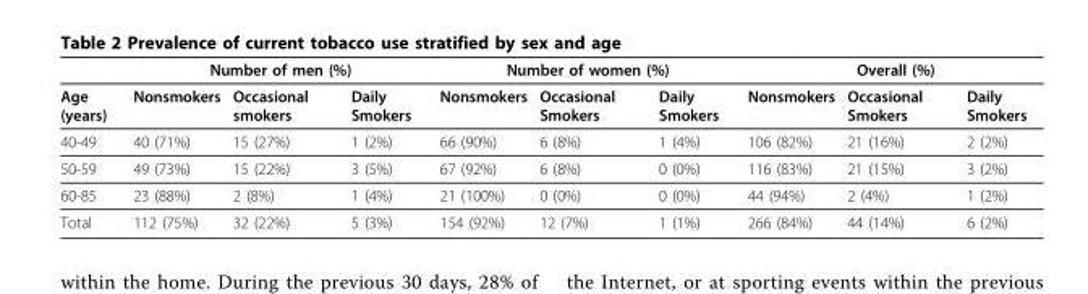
<table><thead><tr><td rowspan="2">Age (years)</td><td colspan="3">Number of men (%)</td><td colspan="3">Number of women (%)</td><td colspan="3">Overall (%)</td></tr><tr><td>Nonsmokers</td><td>Occasional smokers</td><td>Daily Smokers</td><td>Nonsmokers</td><td>Occasional Smokers</td><td>Daily Smokers</td><td>Nonsmokers</td><td>Occasional Smokers</td><td>Daily Smokers</td></tr></thead><tbody><tr><td>40-49</td><td>40 (71%)</td><td>15 (27%)</td><td>1 (2%)</td><td>66 (90%)</td><td>6 (8%)</td><td>1 (4%)</td><td>106 (82%)</td><td>21 (16%)</td><td>2 (2%)</td></tr><tr><td>50-59</td><td>49 (73%)</td><td>15 (22%)</td><td>3 (5%)</td><td>67 (92%)</td><td>6 (8%)</td><td>0 (0%)</td><td>116 (83%)</td><td>21 (15%)</td><td>3 (2%)</td></tr><tr><td>60-85</td><td>23 (88%)</td><td>2 (8%)</td><td>1 (4%)</td><td>21 (100%)</td><td>0 (0%)</td><td>0 (0%)</td><td>44 (94%)</td><td>2 (4%)</td><td>1 (2%)</td></tr><tr><td>Total</td><td>112 (75%)</td><td>32 (22%)</td><td>5 (3%)</td><td>154 (92%)</td><td>12 (7%)</td><td>1 (1%)</td><td>266 (84%)</td><td>44 (14%)</td><td>6 (2%)</td></tr></tbody></table>